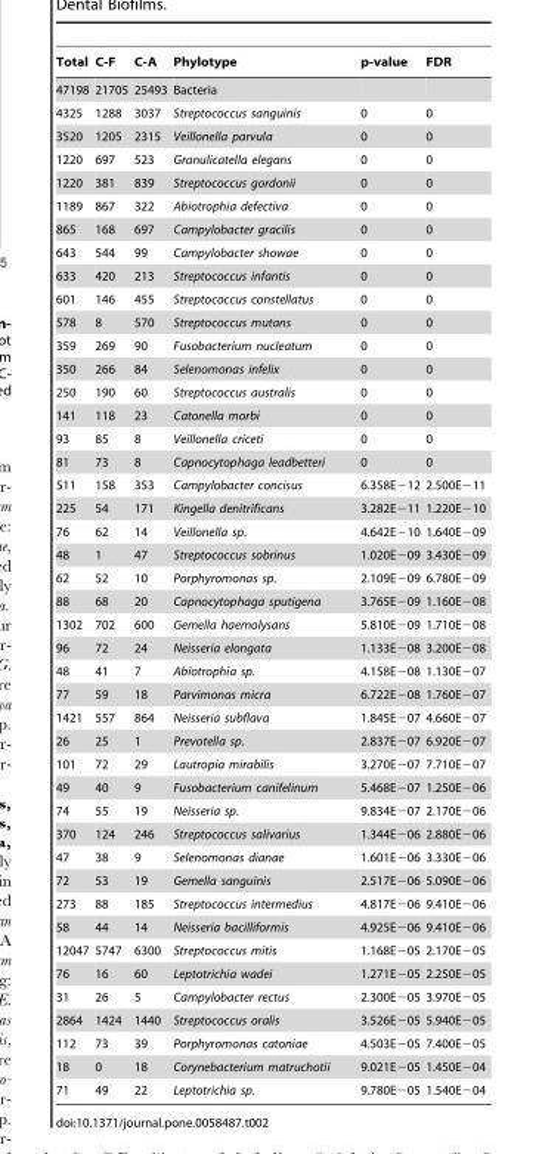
<table><thead><tr><td>Total</td><td>C-F</td><td>C-A</td><td>Phylotype</td><td>p-value</td><td>FDR</td></tr></thead><tbody><tr><td>47198</td><td>21705</td><td>25493</td><td>Bacteria</td><td></td><td></td></tr><tr><td>4325</td><td>1288</td><td>3037</td><td>Streptococcus sanguinis</td><td>0</td><td>0</td></tr><tr><td>3520</td><td>1205</td><td>2315</td><td>Veillonella parvula</td><td>0</td><td>0</td></tr><tr><td>1220</td><td>697</td><td>523</td><td>Granulicatella elegans</td><td>0</td><td>0</td></tr><tr><td>1220</td><td>381</td><td>839</td><td>Streptococcus gordonii</td><td>0</td><td>0</td></tr><tr><td>1189</td><td>867</td><td>322</td><td>Abiotrophia defectiva</td><td>0</td><td>0</td></tr><tr><td>865</td><td>168</td><td>697</td><td>Campylobacter gracilis</td><td>0</td><td>0</td></tr><tr><td>643</td><td>544</td><td>99</td><td>Campylobacter showae</td><td>0</td><td>0</td></tr><tr><td>633</td><td>420</td><td>213</td><td>Streptococcus infantis</td><td>0</td><td>0</td></tr><tr><td>601</td><td>146</td><td>455</td><td>Streptococcus constellatus</td><td>0</td><td>0</td></tr><tr><td>578</td><td>8</td><td>570</td><td>Streptococcus mutans</td><td>0</td><td>0</td></tr><tr><td>359</td><td>269</td><td>90</td><td>Fusobacterium nucleatum</td><td>0</td><td>0</td></tr><tr><td>350</td><td>266</td><td>84</td><td>Selenomonas infelix</td><td>0</td><td>0</td></tr><tr><td>250</td><td>190</td><td>60</td><td>Streptococcus australis</td><td>0</td><td>0</td></tr><tr><td>141</td><td>118</td><td>23</td><td>Catonella morbi</td><td>0</td><td>0</td></tr><tr><td>93</td><td>85</td><td>8</td><td>Veillonella criceti</td><td>0</td><td>0</td></tr><tr><td>81</td><td>73</td><td>8</td><td>Capnocytophaga leadbetteri</td><td>0</td><td>0</td></tr><tr><td>511</td><td>158</td><td>353</td><td>Campylobacter concisus</td><td>6.358E−12</td><td>2.500E−11</td></tr><tr><td>225</td><td>54</td><td>171</td><td>Kingella denitrificans</td><td>3.282E−11</td><td>1.220E−10</td></tr><tr><td>76</td><td>62</td><td>14</td><td>Veillonella sp.</td><td>4.642E−10</td><td>1.640E−09</td></tr><tr><td>48</td><td>1</td><td>47</td><td>Streptococcus sobrinus</td><td>1.020E−09</td><td>3.430E−09</td></tr><tr><td>62</td><td>52</td><td>10</td><td>Porphyromonas sp.</td><td>2.109E−09</td><td>6.780E−09</td></tr><tr><td>88</td><td>68</td><td>20</td><td>Capnocytophaga sputigena</td><td>3.765E−09</td><td>1.160E−08</td></tr><tr><td>1302</td><td>702</td><td>600</td><td>Gemella haemolysans</td><td>5.810E−09</td><td>1.710E−08</td></tr><tr><td>96</td><td>72</td><td>24</td><td>Neisseria elongata</td><td>1.133E−08</td><td>3.200E−08</td></tr><tr><td>48</td><td>41</td><td>7</td><td>Abiotrophia sp.</td><td>4.158E−08</td><td>1.130E−07</td></tr><tr><td>77</td><td>59</td><td>18</td><td>Parvimonas micra</td><td>6.722E−08</td><td>1.760E−07</td></tr><tr><td>1421</td><td>557</td><td>864</td><td>Neisseria subflava</td><td>1.845E−07</td><td>4.660E−07</td></tr><tr><td>26</td><td>25</td><td>1</td><td>Prevotella sp.</td><td>2.837E−07</td><td>6.920E−07</td></tr><tr><td>101</td><td>72</td><td>29</td><td>Lautropia mirabilis</td><td>3.270E−07</td><td>7.710E−07</td></tr><tr><td>49</td><td>40</td><td>9</td><td>Fusobacterium canifelinum</td><td>5.468E−07</td><td>1.250E−06</td></tr><tr><td>74</td><td>55</td><td>19</td><td>Neisseria sp.</td><td>9.834E−07</td><td>2.170E−06</td></tr><tr><td>370</td><td>124</td><td>246</td><td>Streptococcus salivarius</td><td>1.344E−06</td><td>2.880E−06</td></tr><tr><td>47</td><td>38</td><td>9</td><td>Selenomonas dianae</td><td>1.601E−06</td><td>3.330E−06</td></tr><tr><td>72</td><td>53</td><td>19</td><td>Gemella sanguinis</td><td>2.517E−06</td><td>5.090E−06</td></tr><tr><td>273</td><td>88</td><td>185</td><td>Streptococcus intermedius</td><td>4.817E−06</td><td>9.410E−06</td></tr><tr><td>58</td><td>44</td><td>14</td><td>Neisseria bacilliformis</td><td>4.925E−06</td><td>9.410E−06</td></tr><tr><td>12047</td><td>5747</td><td>6300</td><td>Streptococcus mitis</td><td>1.168E−05</td><td>2.170E−05</td></tr><tr><td>76</td><td>16</td><td>60</td><td>Leptotrichia wadei</td><td>1.271E−05</td><td>2.250E−05</td></tr><tr><td>31</td><td>26</td><td>5</td><td>Campylobacter rectus</td><td>2.300E−05</td><td>3.970E−05</td></tr><tr><td>2864</td><td>1424</td><td>1440</td><td>Streptococcus oralis</td><td>3.526E−05</td><td>5.940E−05</td></tr><tr><td>112</td><td>73</td><td>39</td><td>Porphyromonas catoniae</td><td>4.503E−05</td><td>7.400E−05</td></tr><tr><td>18</td><td>0</td><td>18</td><td>Corynebacterium matruchotii</td><td>9.021E−05</td><td>1.450E−04</td></tr><tr><td>71</td><td>49</td><td>22</td><td>Leptotrichia sp.</td><td>9.780E−05</td><td>1.540E−04</td></tr></tbody></table>